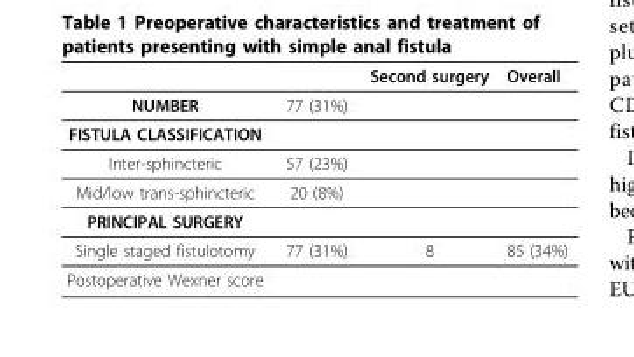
<table><thead><tr><td></td><td></td><td>Second surgery</td><td>Overall</td></tr></thead><tbody><tr><td>NUMBER</td><td>77 (31%)</td><td></td><td></td></tr><tr><td colspan="4">FISTULA CLASSIFICATION</td></tr><tr><td>Inter-sphincteric</td><td>57 (23%)</td><td></td><td></td></tr><tr><td>Mid/low trans-sphincteric</td><td>20 (8%)</td><td></td><td></td></tr><tr><td colspan="4">PRINCIPAL SURGERY</td></tr><tr><td>Single staged fistulotomy</td><td>77 (31%)</td><td>8</td><td>85 (34%)</td></tr><tr><td>Postoperative Wexner score</td><td></td><td></td><td></td></tr></tbody></table>